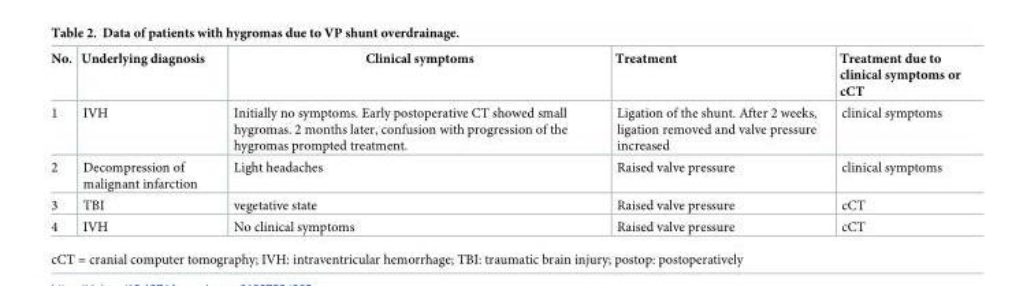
<table><thead><tr><td>No.</td><td>Underlying diagnosis</td><td>Clinical symptoms</td><td>Treatment</td><td>Treatment due to clinical symptoms or cCT</td></tr></thead><tbody><tr><td>1</td><td>IVH</td><td>Initially no symptoms. Early postoperative CT showed small hygromas. 2 months later, confusion with progression of the hygromas prompted treatment.</td><td>Ligation of the shunt. After 2 weeks, ligation removed and valve pressure increased</td><td>clinical symptoms</td></tr><tr><td>2</td><td>Decompression of malignant infarction</td><td>Light headaches</td><td>Raised valve pressure</td><td>clinical symptoms</td></tr><tr><td>3</td><td>TBI</td><td>vegetative state</td><td>Raised valve pressure</td><td>cCT</td></tr><tr><td>4</td><td>IVH</td><td>No clinical symptoms</td><td>Raised valve pressure</td><td>cCT</td></tr></tbody></table>